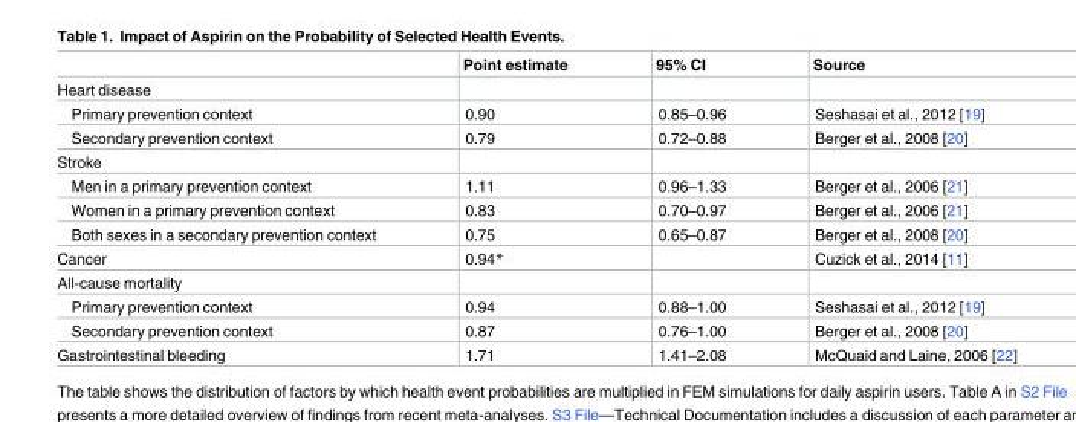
<table><thead><tr><td></td><td>Point estimate</td><td>95% CI</td><td>Source</td></tr></thead><tbody><tr><td colspan="4">Heart disease</td></tr><tr><td>Primary prevention context</td><td>0.90</td><td>0.85–0.96</td><td>Seshasai et al., 2012 [19]</td></tr><tr><td>Secondary prevention context</td><td>0.79</td><td>0.72–0.88</td><td>Berger et al., 2008 [20]</td></tr><tr><td colspan="4">Stroke</td></tr><tr><td>Men in a primary prevention context</td><td>1.11</td><td>0.96–1.33</td><td>Berger et al., 2006 [21]</td></tr><tr><td>Women in a primary prevention context</td><td>0.83</td><td>0.70–0.97</td><td>Berger et al., 2006 [21]</td></tr><tr><td>Both sexes in a secondary prevention context</td><td>0.75</td><td>0.65–0.87</td><td>Berger et al., 2008 [20]</td></tr><tr><td>Cancer</td><td>0.94*</td><td></td><td>Cuzick et al., 2014 [11]</td></tr><tr><td colspan="4">All-cause mortality</td></tr><tr><td>Primary prevention context</td><td>0.94</td><td>0.88–1.00</td><td>Seshasai et al., 2012 [19]</td></tr><tr><td>Secondary prevention context</td><td>0.87</td><td>0.76–1.00</td><td>Berger et al., 2008 [20]</td></tr><tr><td>Gastrointestinal bleeding</td><td>1.71</td><td>1.41–2.08</td><td>McQuaid and Laine, 2006 [22]</td></tr></tbody></table>